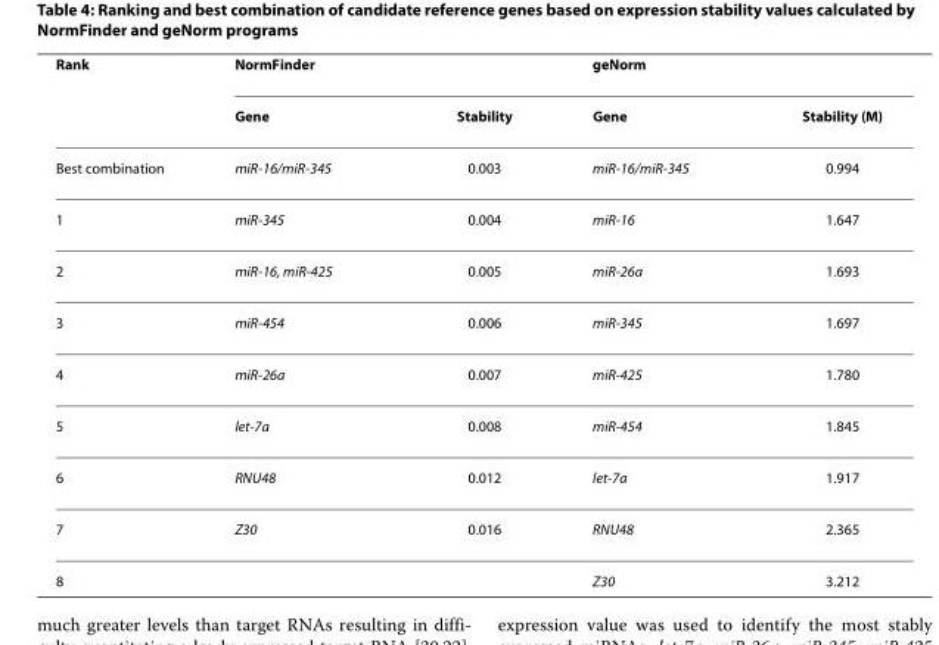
<table><thead><tr><td rowspan="2">Rank</td><td colspan="2">NormFinder</td><td colspan="2">geNorm</td></tr><tr><td>Gene</td><td>Stability</td><td>Gene</td><td>Stability (M)</td></tr></thead><tbody><tr><td>Best combination</td><td>miR-16/miR-345</td><td>0.003</td><td>miR-16/miR-345</td><td>0.994</td></tr><tr><td>1</td><td>miR-345</td><td>0.004</td><td>miR-16</td><td>1.647</td></tr><tr><td>2</td><td>miR-16, miR-425</td><td>0.005</td><td>miR-26a</td><td>1.693</td></tr><tr><td>3</td><td>miR-454</td><td>0.006</td><td>miR-345</td><td>1.697</td></tr><tr><td>4</td><td>miR-26a</td><td>0.007</td><td>miR-425</td><td>1.780</td></tr><tr><td>5</td><td>let-7a</td><td>0.008</td><td>miR-454</td><td>1.845</td></tr><tr><td>6</td><td>RNU48</td><td>0.012</td><td>let-7a</td><td>1.917</td></tr><tr><td>7</td><td>Z30</td><td>0.016</td><td>RNU48</td><td>2.365</td></tr><tr><td>8</td><td></td><td></td><td>Z30</td><td>3.212</td></tr></tbody></table>